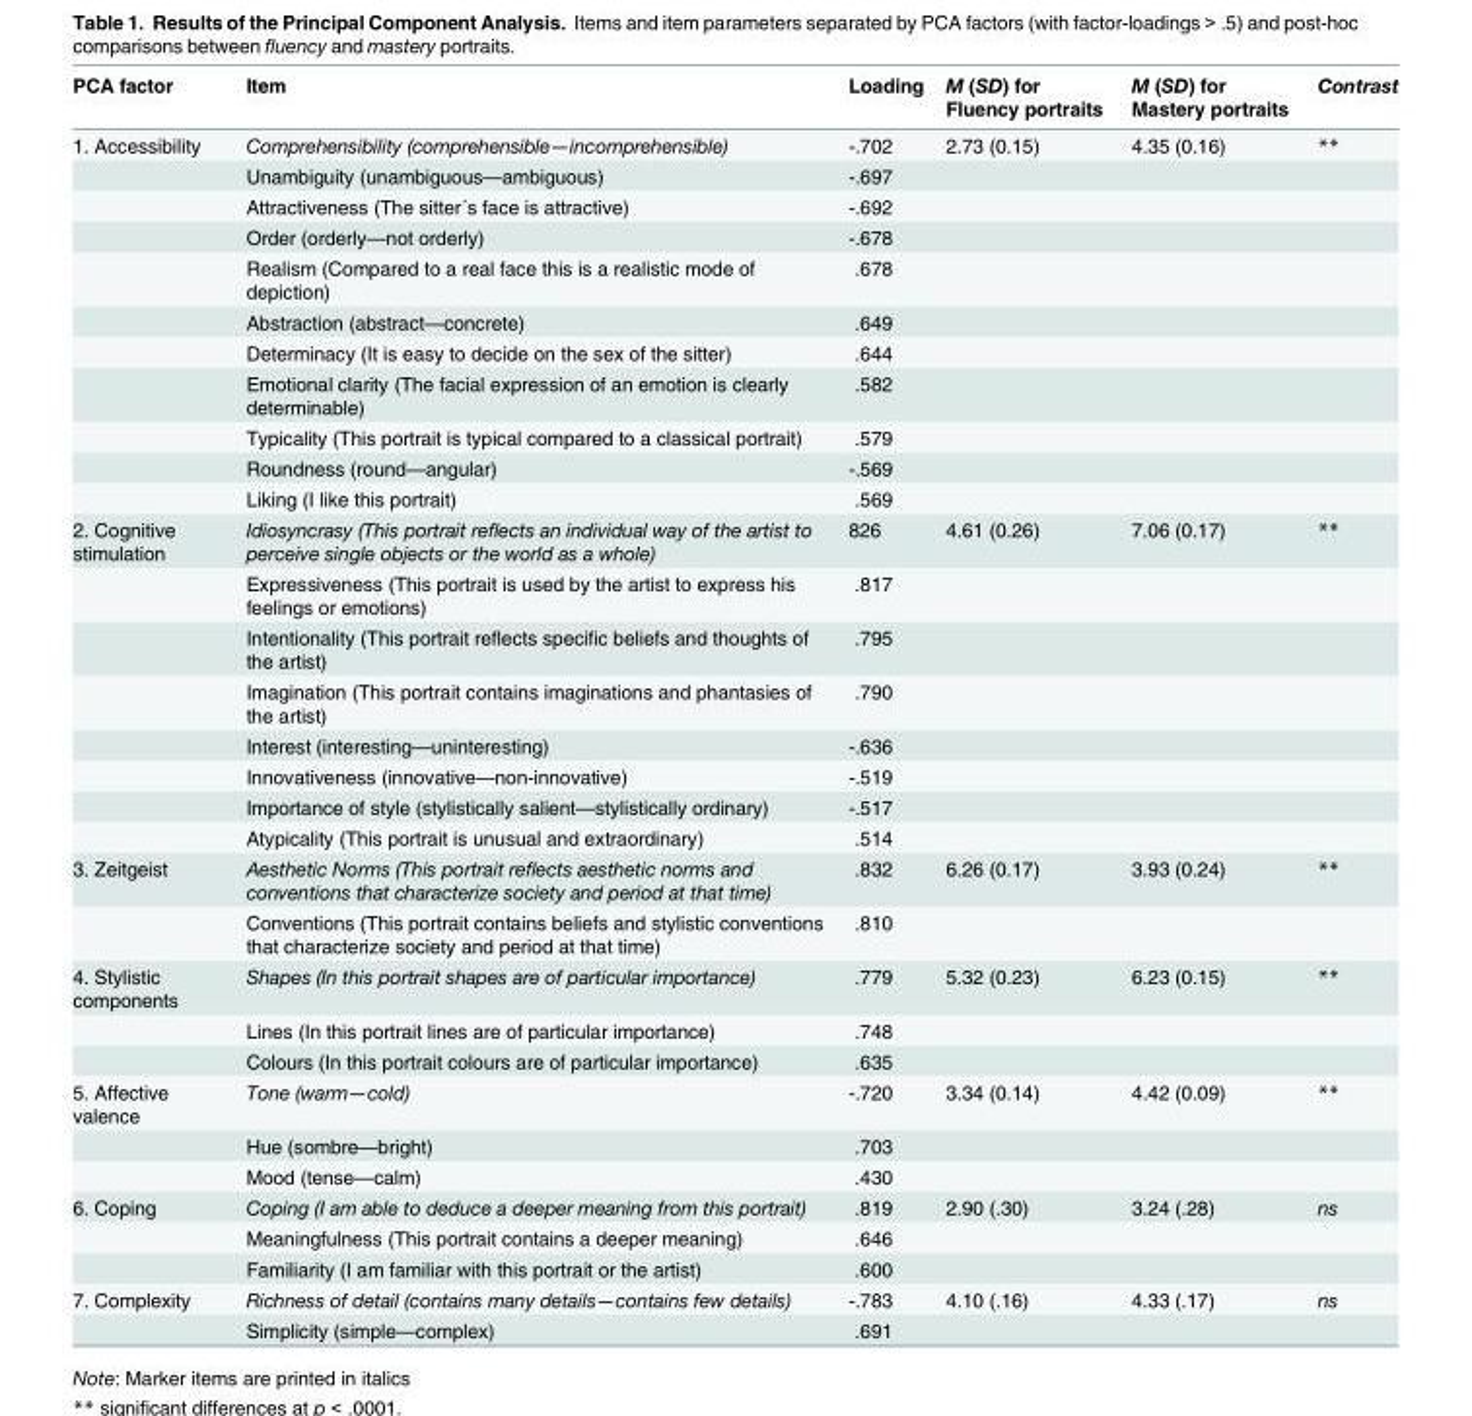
<table><thead><tr><td>PCA factor</td><td>Item</td><td>Loading</td><td>M (SD) for Fluency portraits</td><td>M (SD) for Mastery portraits</td><td>Contrast</td></tr></thead><tbody><tr><td rowspan="11">1. Accessibility</td><td>Comprehensibility (comprehensible—incomprehensible)</td><td>-.702</td><td>2.73 (0.15)</td><td>4.35 (0.16)</td><td>**</td></tr><tr><td>Unambiguity (unambiguous—ambiguous)</td><td>-.697</td><td></td><td></td><td></td></tr><tr><td>Attractiveness (The sitter´s face is attractive)</td><td>-.692</td><td></td><td></td><td></td></tr><tr><td>Order (orderly—not orderly)</td><td>-.678</td><td></td><td></td><td></td></tr><tr><td>Realism (Compared to a real face this is a realistic mode of depiction)</td><td>.678</td><td></td><td></td><td></td></tr><tr><td>Abstraction (abstract—concrete)</td><td>.649</td><td></td><td></td><td></td></tr><tr><td>Determinacy (It is easy to decide on the sex of the sitter)</td><td>.644</td><td></td><td></td><td></td></tr><tr><td>Emotional clarity (The facial expression of an emotion is clearly determinable)</td><td>.582</td><td></td><td></td><td></td></tr><tr><td>Typicality (This portrait is typical compared to a classical portrait)</td><td>.579</td><td></td><td></td><td></td></tr><tr><td>Roundness (round—angular)</td><td>-.569</td><td></td><td></td><td></td></tr><tr><td>Liking (I like this portrait)</td><td>.569</td><td></td><td></td><td></td></tr><tr><td rowspan="8">2. Cognitive stimulation</td><td>Idiosyncrasy (This portrait reflects an individual way of the artist to perceive single objects or the world as a whole)</td><td>826</td><td>4.61 (0.26)</td><td>7.06 (0.17)</td><td>**</td></tr><tr><td>Expressiveness (This portrait is used by the artist to express his feelings or emotions)</td><td>.817</td><td></td><td></td><td></td></tr><tr><td>Intentionality (This portrait reflects specific beliefs and thoughts of the artist)</td><td>.795</td><td></td><td></td><td></td></tr><tr><td>Imagination (This portrait contains imaginations and phantasies of the artist)</td><td>.790</td><td></td><td></td><td></td></tr><tr><td>Interest (interesting—uninteresting)</td><td>-.636</td><td></td><td></td><td></td></tr><tr><td>Innovativeness (innovative—non-innovative)</td><td>-.519</td><td></td><td></td><td></td></tr><tr><td>Importance of style (stylistically salient—stylistically ordinary)</td><td>-.517</td><td></td><td></td><td></td></tr><tr><td>Atypicality (This portrait is unusual and extraordinary)</td><td>.514</td><td></td><td></td><td></td></tr><tr><td rowspan="2">3. Zeitgeist</td><td>Aesthetic Norms (This portrait reflects aesthetic norms and conventions that characterize society and period at that time)</td><td>.832</td><td>6.26 (0.17)</td><td>3.93 (0.24)</td><td>**</td></tr><tr><td>Conventions (This portrait contains beliefs and stylistic conventions that characterize society and period at that time)</td><td>.810</td><td></td><td></td><td></td></tr><tr><td rowspan="3">4. Stylistic components</td><td>Shapes (In this portrait shapes are of particular importance)</td><td>.779</td><td>5.32 (0.23)</td><td>6.23 (0.15)</td><td>**</td></tr><tr><td>Lines (In this portrait lines are of particular importance)</td><td>.748</td><td></td><td></td><td></td></tr><tr><td>Colours (In this portrait colours are of particular importance)</td><td>.635</td><td></td><td></td><td></td></tr><tr><td rowspan="3">5. Affective valence</td><td>Tone (warm—cold)</td><td>-.720</td><td>3.34 (0.14)</td><td>4.42 (0.09)</td><td>**</td></tr><tr><td>Hue (sombre—bright)</td><td>.703</td><td></td><td></td><td></td></tr><tr><td>Mood (tense—calm)</td><td>.430</td><td></td><td></td><td></td></tr><tr><td rowspan="3">6. Coping</td><td>Coping (I am able to deduce a deeper meaning from this portrait)</td><td>.819</td><td>2.90 (.30)</td><td>3.24 (.28)</td><td>ns</td></tr><tr><td>Meaningfulness (This portrait contains a deeper meaning)</td><td>.646</td><td></td><td></td><td></td></tr><tr><td>Familiarity (I am familiar with this portrait or the artist)</td><td>.600</td><td></td><td></td><td></td></tr><tr><td rowspan="2">7. Complexity</td><td>Richness of detail (contains many details—contains few details)</td><td>-.783</td><td>4.10 (.16)</td><td>4.33 (.17)</td><td>ns</td></tr><tr><td>Simplicity (simple—complex)</td><td>.691</td><td></td><td></td><td></td></tr></tbody></table>